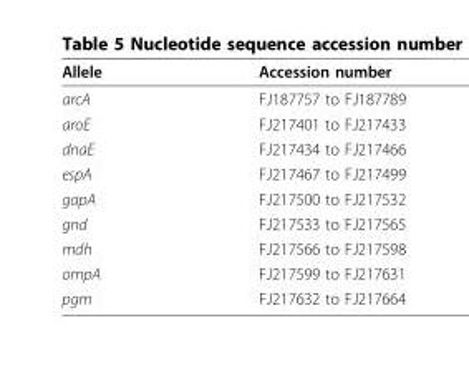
<table><thead><tr><td>Allele</td><td>Accession number</td></tr></thead><tbody><tr><td>arcA</td><td>FJ187757 to FJ187789</td></tr><tr><td>aroE</td><td>FJ217401 to FJ217433</td></tr><tr><td>dnaE</td><td>FJ217434 to FJ217466</td></tr><tr><td>espA</td><td>FJ217467 to FJ217499</td></tr><tr><td>gapA</td><td>FJ217500 to FJ217532</td></tr><tr><td>gnd</td><td>FJ217533 to FJ217565</td></tr><tr><td>mdh</td><td>FJ217566 to FJ217598</td></tr><tr><td>ompA</td><td>FJ217599 to FJ217631</td></tr><tr><td>pgm</td><td>FJ217632 to FJ217664</td></tr></tbody></table>